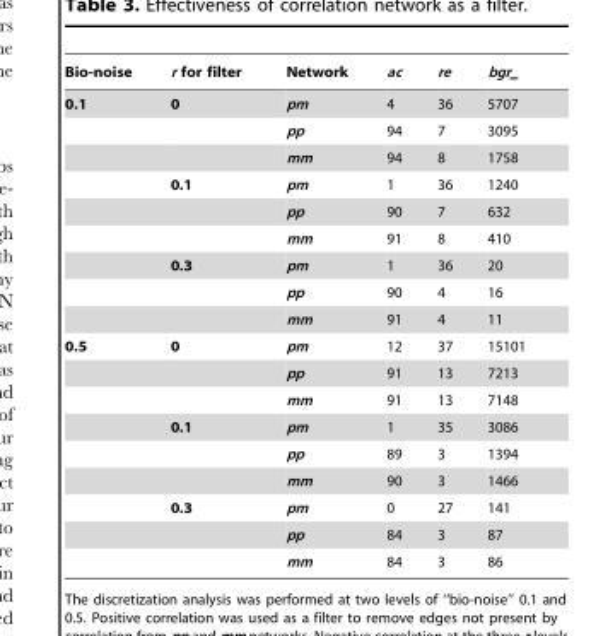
<table><thead><tr><td>Bio-noise</td><td>r for filter</td><td>Network</td><td>ac</td><td>re</td><td>bgr__</td></tr></thead><tbody><tr><td rowspan="9">0.1</td><td>0</td><td>pm</td><td>4</td><td>36</td><td>5707</td></tr><tr><td></td><td>pp</td><td>94</td><td>7</td><td>3095</td></tr><tr><td></td><td>mm</td><td>94</td><td>8</td><td>1758</td></tr><tr><td>0.1</td><td>pm</td><td>1</td><td>36</td><td>1240</td></tr><tr><td></td><td>pp</td><td>90</td><td>7</td><td>632</td></tr><tr><td></td><td>mm</td><td>91</td><td>8</td><td>410</td></tr><tr><td>0.3</td><td>pm</td><td>1</td><td>36</td><td>20</td></tr><tr><td></td><td>pp</td><td>90</td><td>4</td><td>16</td></tr><tr><td></td><td>mm</td><td>91</td><td>4</td><td>11</td></tr><tr><td rowspan="9">0.5</td><td>0</td><td>pm</td><td>12</td><td>37</td><td>15101</td></tr><tr><td></td><td>pp</td><td>91</td><td>13</td><td>7213</td></tr><tr><td></td><td>mm</td><td>91</td><td>13</td><td>7148</td></tr><tr><td>0.1</td><td>pm</td><td>1</td><td>35</td><td>3086</td></tr><tr><td></td><td>pp</td><td>89</td><td>3</td><td>1394</td></tr><tr><td></td><td>mm</td><td>90</td><td>3</td><td>1466</td></tr><tr><td>0.3</td><td>pm</td><td>0</td><td>27</td><td>141</td></tr><tr><td></td><td>pp</td><td>84</td><td>3</td><td>87</td></tr><tr><td></td><td>mm</td><td>84</td><td>3</td><td>86</td></tr></tbody></table>